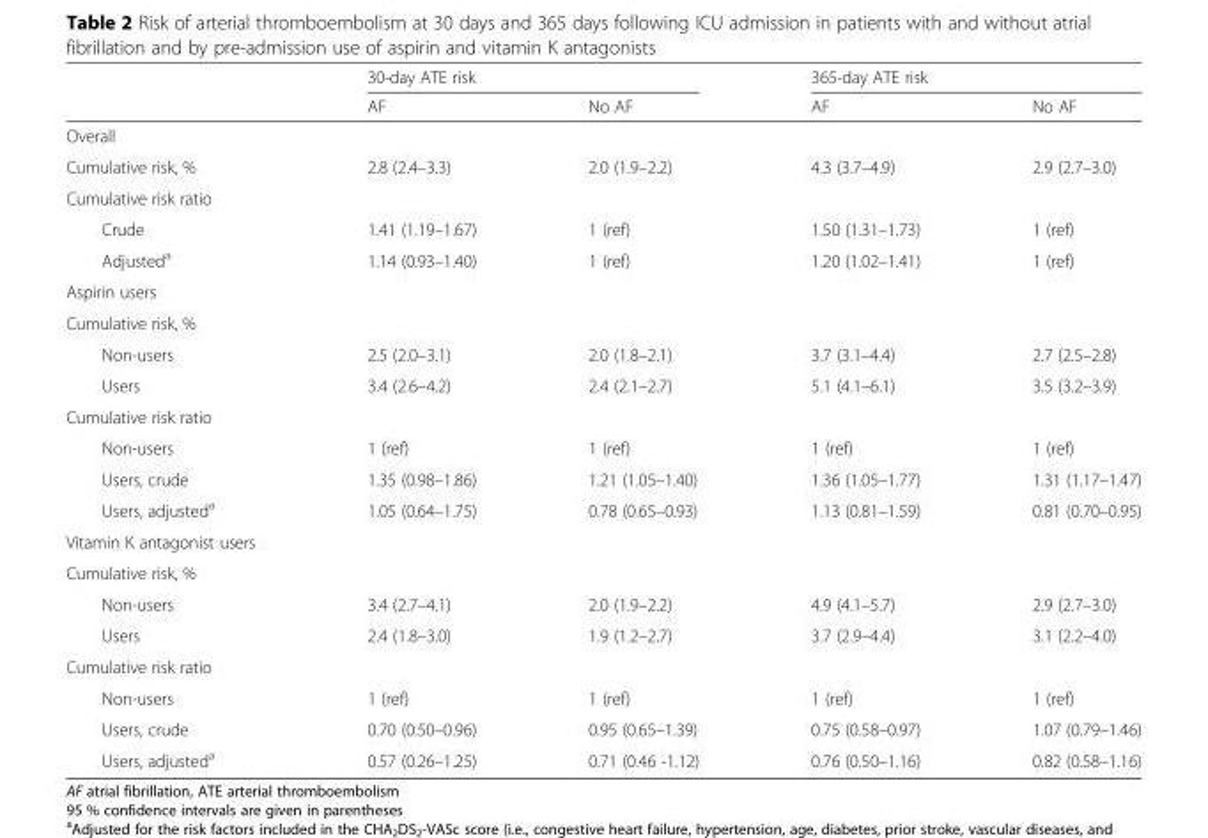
<table><thead><tr><td rowspan="2"></td><td colspan="2">30-day ATE risk</td><td colspan="2">365-day ATE risk</td></tr><tr><td>AF</td><td>No AF</td><td>AF</td><td>No AF</td></tr></thead><tbody><tr><td colspan="5">Overall</td></tr><tr><td>Cumulative risk, %</td><td>2.8 (2.4–3.3)</td><td>2.0 (1.9–2.2)</td><td>4.3 (3.7–4.9)</td><td>2.9 (2.7–3.0)</td></tr><tr><td colspan="5">Cumulative risk ratio</td></tr><tr><td>Crude</td><td>1.41 (1.19–1.67)</td><td>1 (ref)</td><td>1.50 (1.31–1.73)</td><td>1 (ref)</td></tr><tr><td>Adjusted<sup>a</sup></td><td>1.14 (0.93–1.40)</td><td>1 (ref)</td><td>1.20 (1.02–1.41)</td><td>1 (ref)</td></tr><tr><td colspan="5">Aspirin users</td></tr><tr><td colspan="5">Cumulative risk, %</td></tr><tr><td>Non-users</td><td>2.5 (2.0–3.1)</td><td>2.0 (1.8–2.1)</td><td>3.7 (3.1–4.4)</td><td>2.7 (2.5–2.8)</td></tr><tr><td>Users</td><td>3.4 (2.6–4.2)</td><td>2.4 (2.1–2.7)</td><td>5.1 (4.1–6.1)</td><td>3.5 (3.2–3.9)</td></tr><tr><td colspan="5">Cumulative risk ratio</td></tr><tr><td>Non-users</td><td>1 (ref)</td><td>1 (ref)</td><td>1 (ref)</td><td>1 (ref)</td></tr><tr><td>Users, crude</td><td>1.35 (0.98–1.86)</td><td>1.21 (1.05–1.40)</td><td>1.36 (1.05–1.77)</td><td>1.31 (1.17–1.47)</td></tr><tr><td>Users, adjusted<sup>a</sup></td><td>1.05 (0.64–1.75)</td><td>0.78 (0.65–0.93)</td><td>1.13 (0.81–1.59)</td><td>0.81 (0.70–0.95)</td></tr><tr><td colspan="5">Vitamin K antagonist users</td></tr><tr><td colspan="5">Cumulative risk, %</td></tr><tr><td>Non-users</td><td>3.4 (2.7–4.1)</td><td>2.0 (1.9–2.2)</td><td>4.9 (4.1–5.7)</td><td>2.9 (2.7–3.0)</td></tr><tr><td>Users</td><td>2.4 (1.8–3.0)</td><td>1.9 (1.2–2.7)</td><td>3.7 (2.9–4.4)</td><td>3.1 (2.2–4.0)</td></tr><tr><td colspan="5">Cumulative risk ratio</td></tr><tr><td>Non-users</td><td>1 (ref)</td><td>1 (ref)</td><td>1 (ref)</td><td>1 (ref)</td></tr><tr><td>Users, crude</td><td>0.70 (0.50–0.96)</td><td>0.95 (0.65–1.39)</td><td>0.75 (0.58–0.97)</td><td>1.07 (0.79–1.46)</td></tr><tr><td>Users, adjusted<sup>a</sup></td><td>0.57 (0.26–1.25)</td><td>0.71 (0.46 -1.12)</td><td>0.76 (0.50–1.16)</td><td>0.82 (0.58–1.16)</td></tr></tbody></table>